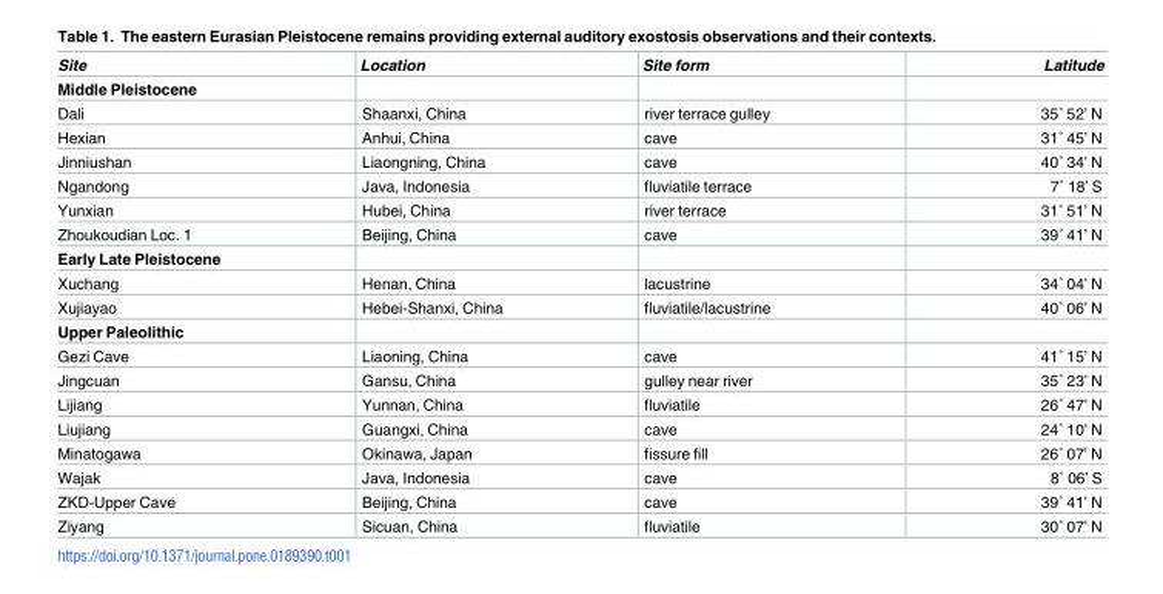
<table><thead><tr><td>Site</td><td>Location</td><td>Site form</td><td>Latitude</td></tr></thead><tbody><tr><td colspan="4">Middle Pleistocene</td></tr><tr><td>Dali</td><td>Shaanxi, China</td><td>river terrace gulley</td><td>35˚ 52’ N</td></tr><tr><td>Hexian</td><td>Anhui, China</td><td>cave</td><td>31˚ 45’ N</td></tr><tr><td>Jinniushan</td><td>Liaongning, China</td><td>cave</td><td>40˚ 34’ N</td></tr><tr><td>Ngandong</td><td>Java, Indonesia</td><td>fluviatile terrace</td><td>7˚ 18’ S</td></tr><tr><td>Yunxian</td><td>Hubei, China</td><td>river terrace</td><td>31˚ 51’ N</td></tr><tr><td>Zhoukoudian Loc. 1</td><td>Beijing, China</td><td>cave</td><td>39˚ 41’ N</td></tr><tr><td colspan="4">Early Late Pleistocene</td></tr><tr><td>Xuchang</td><td>Henan, China</td><td>lacustrine</td><td>34˚ 04’ N</td></tr><tr><td>Xujiayao</td><td>Hebei-Shanxi, China</td><td>fluviatile/lacustrine</td><td>40˚ 06’ N</td></tr><tr><td colspan="4">Upper Paleolithic</td></tr><tr><td>Gezi Cave</td><td>Liaoning, China</td><td>cave</td><td>41˚ 15’ N</td></tr><tr><td>Jingcuan</td><td>Gansu, China</td><td>gulley near river</td><td>35˚ 23’ N</td></tr><tr><td>Lijiang</td><td>Yunnan, China</td><td>fluviatile</td><td>26˚ 47’ N</td></tr><tr><td>Liujiang</td><td>Guangxi, China</td><td>cave</td><td>24˚ 10’ N</td></tr><tr><td>Minatogawa</td><td>Okinawa, Japan</td><td>fissure fill</td><td>26˚ 07’ N</td></tr><tr><td>Wajak</td><td>Java, Indonesia</td><td>cave</td><td>8˚ 06’ S</td></tr><tr><td>ZKD-Upper Cave</td><td>Beijing, China</td><td>cave</td><td>39˚ 41’ N</td></tr><tr><td>Ziyang</td><td>Sicuan, China</td><td>fluviatile</td><td>30˚ 07’ N</td></tr></tbody></table>